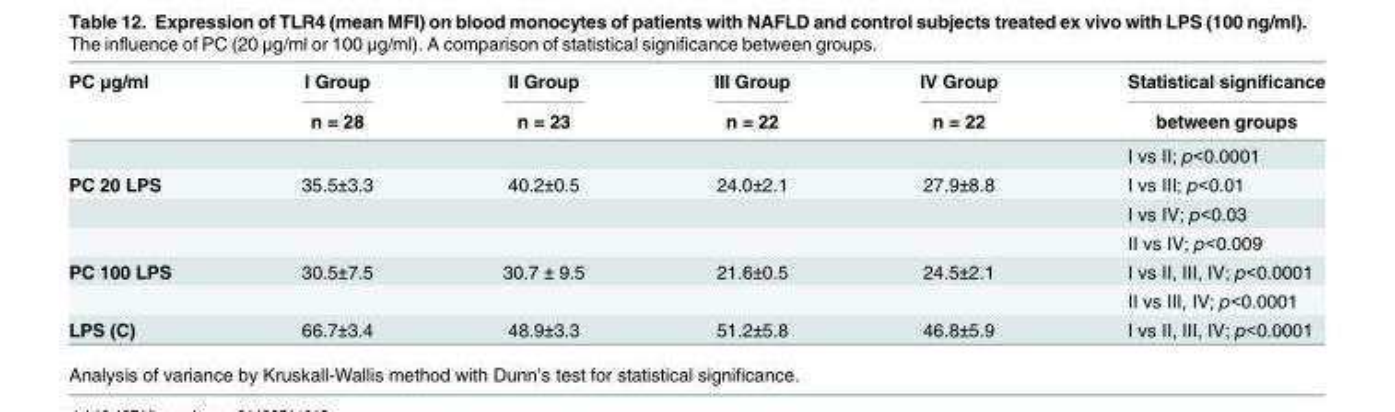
<table><thead><tr><td rowspan="2">PC μg/ml</td><td rowspan="2">I Group n = 28</td><td rowspan="2">II Group n = 23</td><td rowspan="2">III Group n = 22</td><td rowspan="2">IV Group n = 22</td><td rowspan="2">Statistical significance between groups</td></tr><tr></tr></thead><tbody><tr><td></td><td></td><td></td><td></td><td></td><td>I vs II; p&lt;0.0001</td></tr><tr><td rowspan="3">PC 20 LPS</td><td>35.5±3.3</td><td>40.2±0.5</td><td>24.0±2.1</td><td>27.9±8.8</td><td>I vs III; p&lt;0.01</td></tr><tr><td></td><td></td><td></td><td></td><td>I vs IV; p&lt;0.03</td></tr><tr><td></td><td></td><td></td><td></td><td>II vs IV; p&lt;0.009</td></tr><tr><td rowspan="2">PC 100 LPS</td><td>30.5±7.5</td><td>30.7 ± 9.5</td><td>21.6±0.5</td><td>24.5±2.1</td><td>I vs II, III, IV; p&lt;0.0001</td></tr><tr><td></td><td></td><td></td><td></td><td>II vs III, IV; p&lt;0.0001</td></tr><tr><td>LPS (C)</td><td>66.7±3.4</td><td>48.9±3.3</td><td>51.2±5.8</td><td>46.8±5.9</td><td>I vs II, III, IV; p&lt;0.0001</td></tr></tbody></table>